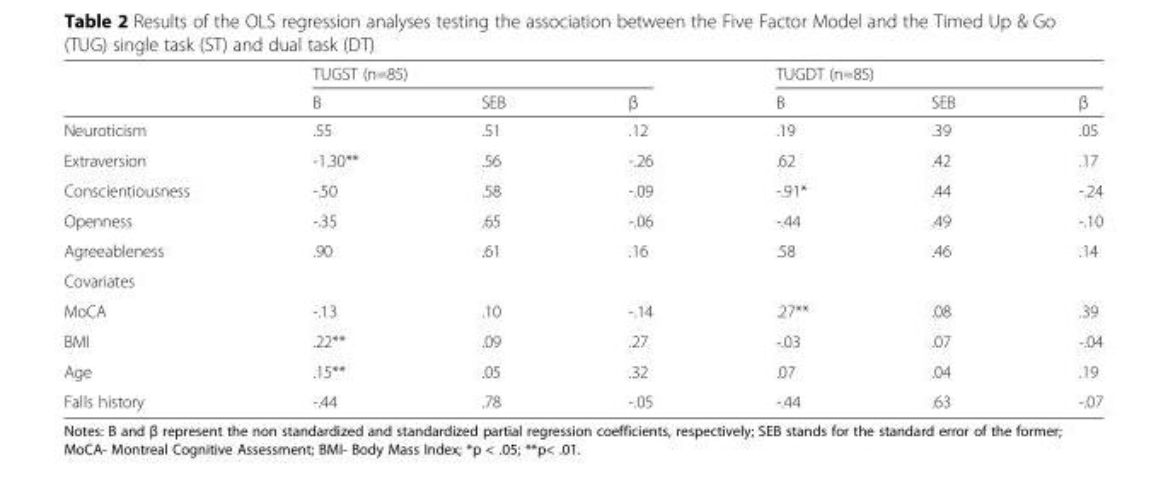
<table><thead><tr><td rowspan="2"></td><td colspan="3">TUGST (n=85)</td><td colspan="3">TUGDT (n=85)</td></tr><tr><td>B</td><td>SEB</td><td>β</td><td>B</td><td>SEB</td><td>β</td></tr></thead><tbody><tr><td>Neuroticism</td><td>.55</td><td>.51</td><td>.12</td><td>.19</td><td>.39</td><td>.05</td></tr><tr><td>Extraversion</td><td>-1.30**</td><td>.56</td><td>-.26</td><td>.62</td><td>.42</td><td>.17</td></tr><tr><td>Conscientiousness</td><td>-.50</td><td>.58</td><td>-.09</td><td>-.91*</td><td>.44</td><td>-.24</td></tr><tr><td>Openness</td><td>-.35</td><td>.65</td><td>-.06</td><td>-.44</td><td>.49</td><td>-.10</td></tr><tr><td>Agreeableness</td><td>.90</td><td>.61</td><td>.16</td><td>.58</td><td>.46</td><td>.14</td></tr><tr><td colspan="7">Covariates</td></tr><tr><td>MoCA</td><td>-.13</td><td>.10</td><td>-.14</td><td>.27**</td><td>.08</td><td>.39</td></tr><tr><td>BMI</td><td>.22**</td><td>.09</td><td>.27</td><td>-.03</td><td>.07</td><td>-.04</td></tr><tr><td>Age</td><td>.15**</td><td>.05</td><td>.32</td><td>.07</td><td>.04</td><td>.19</td></tr><tr><td>Falls history</td><td>-.44</td><td>.78</td><td>-.05</td><td>-.44</td><td>.63</td><td>-.07</td></tr></tbody></table>